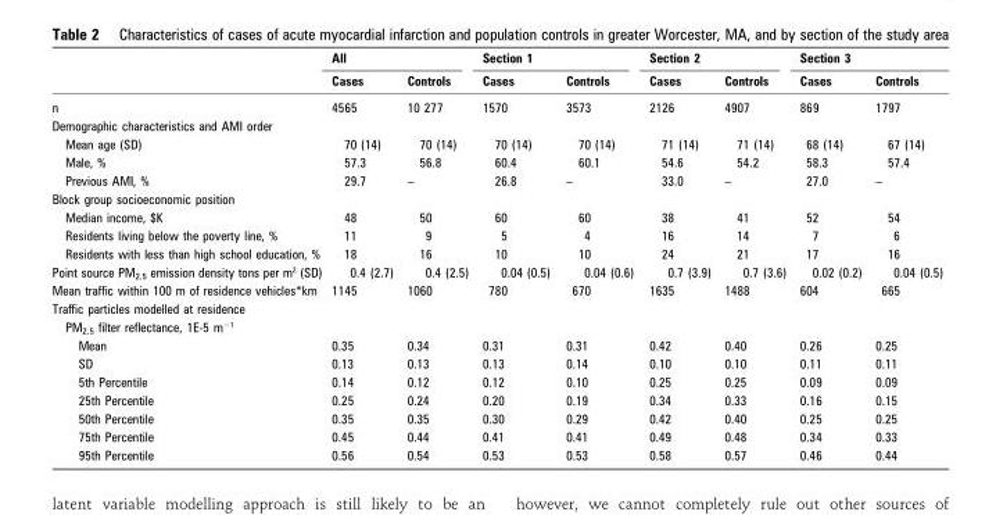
<table><thead><tr><td rowspan="2"></td><td colspan="2">All</td><td colspan="2">Section 1</td><td colspan="2">Section 2</td><td colspan="2">Section 3</td></tr><tr><td>Cases</td><td>Controls</td><td>Cases</td><td>Controls</td><td>Cases</td><td>Controls</td><td>Cases</td><td>Controls</td></tr></thead><tbody><tr><td>n</td><td>4565</td><td>10 277</td><td>1570</td><td>3573</td><td>2126</td><td>4907</td><td>869</td><td>1797</td></tr><tr><td colspan="9">Demographic characteristics and AMI order</td></tr><tr><td>Mean age (SD)</td><td>70 (14)</td><td>70 (14)</td><td>70 (14)</td><td>70 (14)</td><td>71 (14)</td><td>71 (14)</td><td>68 (14)</td><td>67 (14)</td></tr><tr><td>Male, %</td><td>57.3</td><td>56.8</td><td>60.4</td><td>60.1</td><td>54.6</td><td>54.2</td><td>58.3</td><td>57.4</td></tr><tr><td>Previous AMI, %</td><td>29.7</td><td>–</td><td>26.8</td><td>–</td><td>33.0</td><td>–</td><td>27.0</td><td>–</td></tr><tr><td colspan="9">Block group socioeconomic position</td></tr><tr><td>Median income, $K</td><td>48</td><td>50</td><td>60</td><td>60</td><td>38</td><td>41</td><td>52</td><td>54</td></tr><tr><td>Residents living below the poverty line, %</td><td>11</td><td>9</td><td>5</td><td>4</td><td>16</td><td>14</td><td>7</td><td>6</td></tr><tr><td>Residents with less than high school education, %</td><td>18</td><td>16</td><td>10</td><td>10</td><td>24</td><td>21</td><td>17</td><td>16</td></tr><tr><td>Point source PM<sub>2.5</sub> emission density tons per m<sup>2</sup> (SD)</td><td>0.4 (2.7)</td><td>0.4 (2.5)</td><td>0.04 (0.5)</td><td>0.04 (0.6)</td><td>0.7 (3.9)</td><td>0.7 (3.6)</td><td>0.02 (0.2)</td><td>0.04 (0.5)</td></tr><tr><td>Mean traffic within 100 m of residence vehicles*km</td><td>1145</td><td>1060</td><td>780</td><td>670</td><td>1635</td><td>1488</td><td>604</td><td>665</td></tr><tr><td colspan="9">Traffic particles modelled at residence</td></tr><tr><td colspan="9">PM<sub>2.5</sub> filter reflectance, 1E-5 m<sup>−1</sup></td></tr><tr><td>Mean</td><td>0.35</td><td>0.34</td><td>0.31</td><td>0.31</td><td>0.42</td><td>0.40</td><td>0.26</td><td>0.25</td></tr><tr><td>SD</td><td>0.13</td><td>0.13</td><td>0.13</td><td>0.14</td><td>0.10</td><td>0.10</td><td>0.11</td><td>0.11</td></tr><tr><td>5th Percentile</td><td>0.14</td><td>0.12</td><td>0.12</td><td>0.10</td><td>0.25</td><td>0.25</td><td>0.09</td><td>0.09</td></tr><tr><td>25th Percentile</td><td>0.25</td><td>0.24</td><td>0.20</td><td>0.19</td><td>0.34</td><td>0.33</td><td>0.16</td><td>0.15</td></tr><tr><td>50th Percentile</td><td>0.35</td><td>0.35</td><td>0.30</td><td>0.29</td><td>0.42</td><td>0.40</td><td>0.25</td><td>0.25</td></tr><tr><td>75th Percentile</td><td>0.45</td><td>0.44</td><td>0.41</td><td>0.41</td><td>0.49</td><td>0.48</td><td>0.34</td><td>0.33</td></tr><tr><td>95th Percentile</td><td>0.56</td><td>0.54</td><td>0.53</td><td>0.53</td><td>0.58</td><td>0.57</td><td>0.46</td><td>0.44</td></tr></tbody></table>